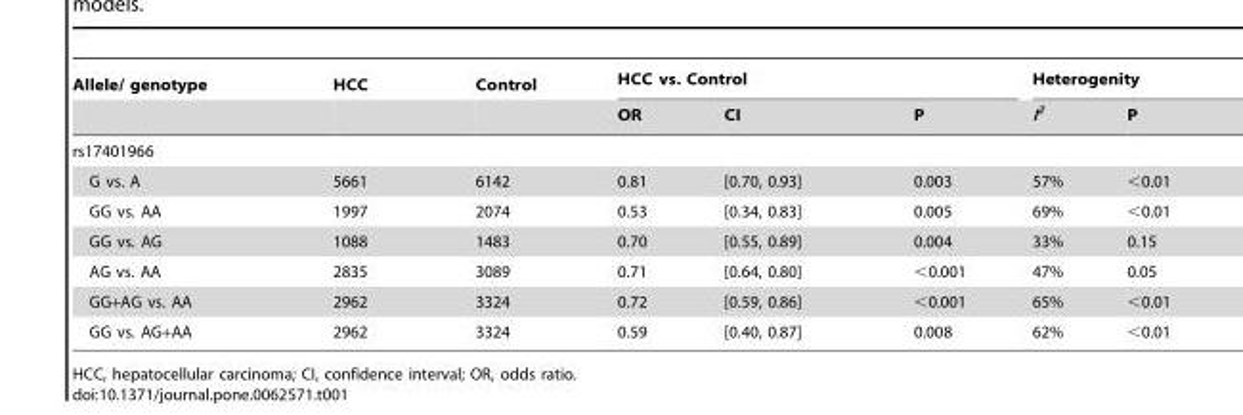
<table><thead><tr><td rowspan="2">Allele/ genotype</td><td rowspan="2">HCC</td><td rowspan="2">Control</td><td colspan="3">HCC vs. Control</td><td colspan="2">Heterogenity</td></tr><tr><td>OR</td><td>CI</td><td>P</td><td>I<sup>2</sup></td><td>P</td></tr></thead><tbody><tr><td colspan="8">rs17401966</td></tr><tr><td>G vs. A</td><td>5661</td><td>6142</td><td>0.81</td><td>[0.70, 0.93]</td><td>0.003</td><td>57%</td><td>&lt;0.01</td></tr><tr><td>GG vs. AA</td><td>1997</td><td>2074</td><td>0.53</td><td>[0.34, 0.83]</td><td>0.005</td><td>69%</td><td>&lt;0.01</td></tr><tr><td>GG vs. AG</td><td>1088</td><td>1483</td><td>0.70</td><td>[0.55, 0.89]</td><td>0.004</td><td>33%</td><td>0.15</td></tr><tr><td>AG vs. AA</td><td>2835</td><td>3089</td><td>0.71</td><td>[0.64, 0.80]</td><td>&lt;0.001</td><td>47%</td><td>0.05</td></tr><tr><td>GG+AG vs. AA</td><td>2962</td><td>3324</td><td>0.72</td><td>[0.59, 0.86]</td><td>&lt;0.001</td><td>65%</td><td>&lt;0.01</td></tr><tr><td>GG vs. AG+AA</td><td>2962</td><td>3324</td><td>0.59</td><td>[0.40, 0.87]</td><td>0.008</td><td>62%</td><td>&lt;0.01</td></tr></tbody></table>